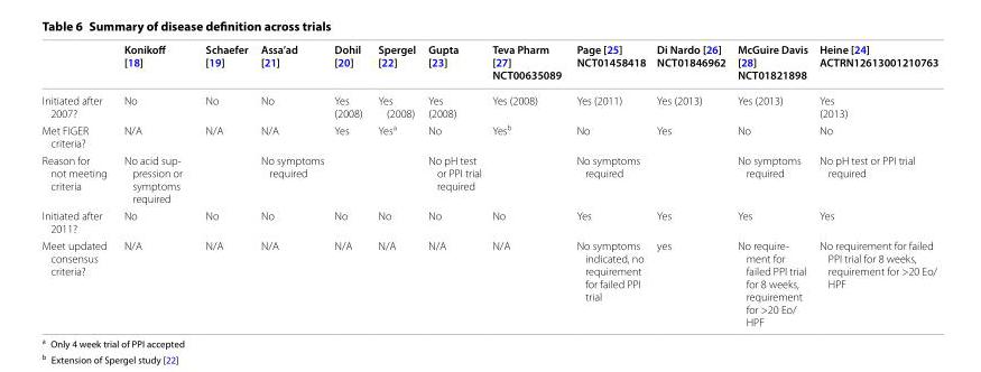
<table><thead><tr><td></td><td>Konikoff [18]</td><td>Schaefer [19]</td><td>Assa’ad [21]</td><td>Dohil [20]</td><td>Spergel [22]</td><td>Gupta [23]</td><td>Teva Pharm [27] NCT00635089</td><td>Page [25] NCT01458418</td><td>Di Nardo [26] NCT01846962</td><td>McGuire Davis [28] NCT01821898</td><td>Heine [24] ACTRN12613001210763</td></tr></thead><tbody><tr><td>Initiated after 2007?</td><td>No</td><td>No</td><td>No</td><td>Yes (2008)</td><td>Yes (2008)</td><td>Yes (2008)</td><td>Yes (2008)</td><td>Yes (2011)</td><td>Yes (2013)</td><td>Yes (2013)</td><td>Yes (2013)</td></tr><tr><td>Met FIGER criteria?</td><td>N/A</td><td>N/A</td><td>N/A</td><td>Yes</td><td>Yes<sup>a</sup></td><td>No</td><td>Yes<sup>b</sup></td><td>No</td><td>Yes</td><td>No</td><td>No</td></tr><tr><td>Reason for not meeting criteria</td><td>No acid sup- pression or symptoms required</td><td></td><td>No symptoms required</td><td></td><td></td><td>No pH test or PPI trial required</td><td></td><td>No symptoms required</td><td></td><td>No symptoms required</td><td>No pH test or PPI trial required</td></tr><tr><td>Initiated after 2011?</td><td>No</td><td>No</td><td>No</td><td>No</td><td>No</td><td>No</td><td>No</td><td>Yes</td><td>Yes</td><td>Yes</td><td>Yes</td></tr><tr><td>Meet updated consensus criteria?</td><td>N/A</td><td>N/A</td><td>N/A</td><td>N/A</td><td>N/A</td><td>N/A</td><td>N/A</td><td>No symptoms indicated, no requirement for failed PPI trial</td><td>yes</td><td>No require- ment for failed PPI trial for 8 weeks, requirement for &gt;20 Eo/ HPF</td><td>No requirement for failed PPI trial for 8 weeks, requirement for &gt;20 Eo/ HPF</td></tr></tbody></table>